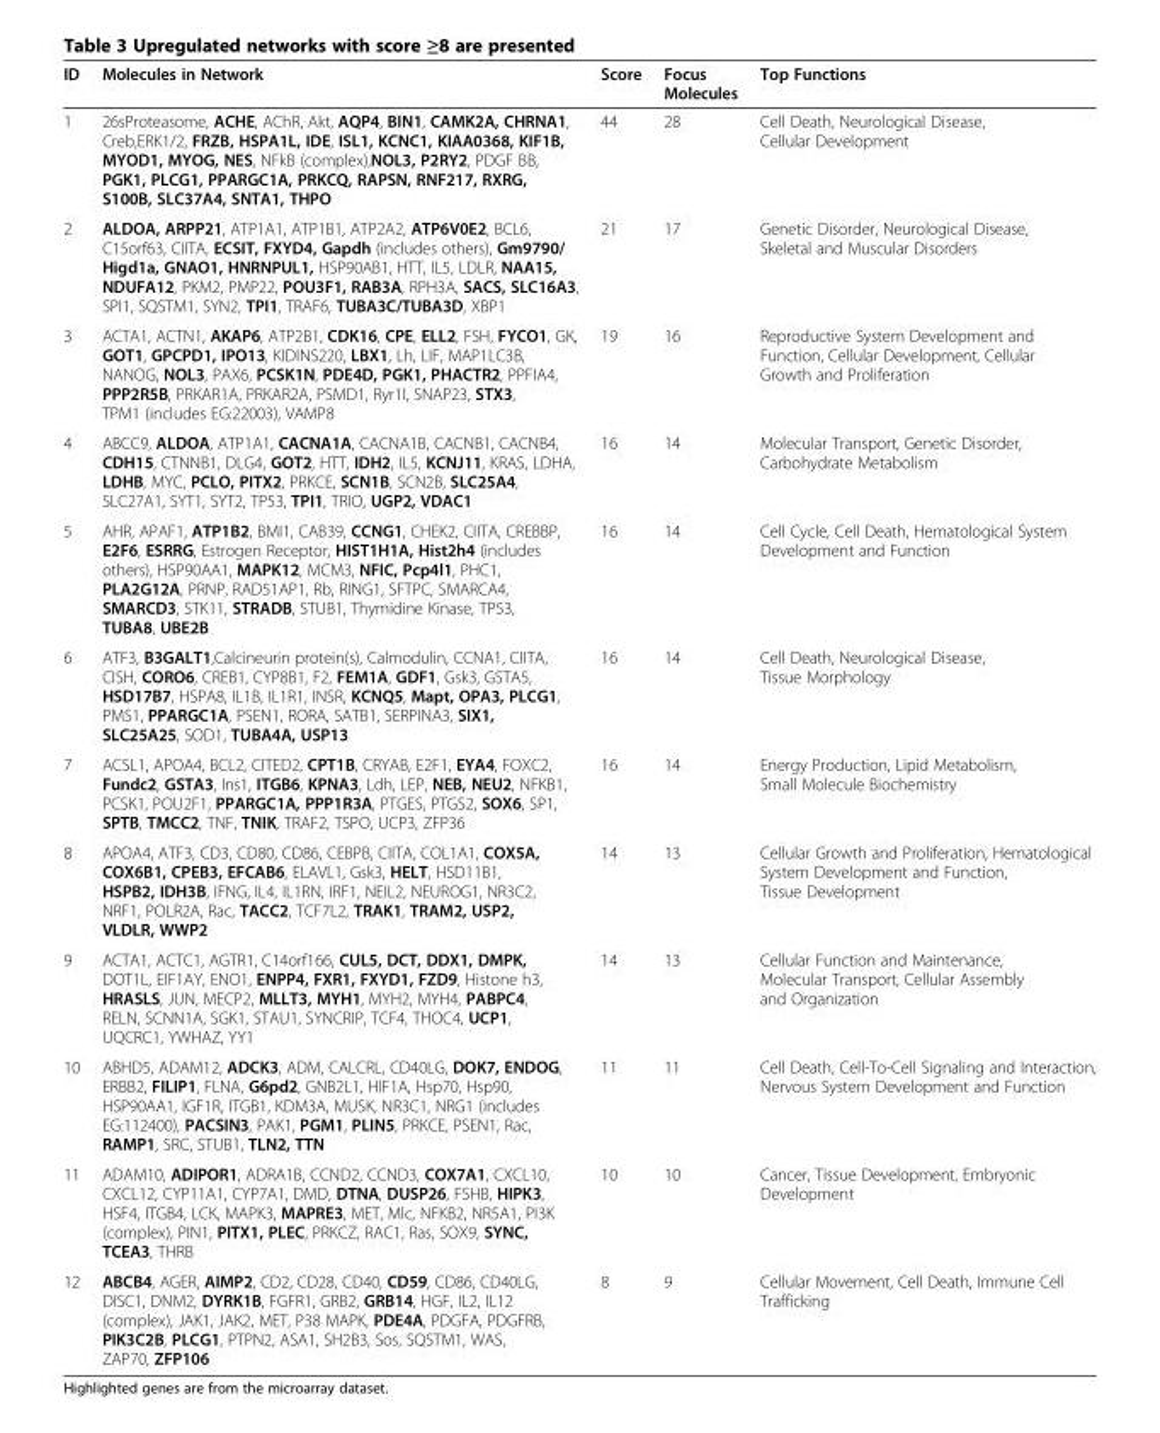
<table><thead><tr><td>ID</td><td>Molecules in Network</td><td>Score</td><td>Focus Molecules</td><td>Top Functions</td></tr></thead><tbody><tr><td>1</td><td>26sProteasome, ACHE, AChR, Akt, AQP4, BIN1, CAMK2A, CHRNA1, Creb,ERK1/2, FRZB, HSPA1L, IDE, ISL1, KCNC1, KIAA0368, KIF1B, MYOD1, MYOG, NES, NFkB (complex),NOL3, P2RY2, PDGF BB, PGK1, PLCG1, PPARGC1A, PRKCQ, RAPSN, RNF217, RXRG, S100B, SLC37A4, SNTA1, THPO</td><td>44</td><td>28</td><td>Cell Death, Neurological Disease, Cellular Development</td></tr><tr><td>2</td><td>ALDOA, ARPP21, ATP1A1, ATP1B1, ATP2A2, ATP6V0E2, BCL6, C15orf63, CIITA, ECSIT, FXYD4, Gapdh (includes others), Gm9790/ Higd1a, GNAO1, HNRNPUL1, HSP90AB1, HTT, IL5, LDLR, NAA15, NDUFA12, PKM2, PMP22, POU3F1, RAB3A, RPH3A, SACS, SLC16A3, SPI1, SQSTM1, SYN2, TPI1, TRAF6, TUBA3C/TUBA3D, XBP1</td><td>21</td><td>17</td><td>Genetic Disorder, Neurological Disease, Skeletal and Muscular Disorders</td></tr><tr><td>3</td><td>ACTA1, ACTN1, AKAP6, ATP2B1, CDK16, CPE, ELL2, FSH, FYCO1, GK, GOT1, GPCPD1, IPO13, KIDINS220, LBX1, Lh, LIF, MAP1LC3B, NANOG, NOL3, PAX6, PCSK1N, PDE4D, PGK1, PHACTR2, PPFIA4, PPP2R5B, PRKAR1A, PRKAR2A, PSMD1, Ryr1l, SNAP23, STX3, TPM1 (includes EG:22003), VAMP8</td><td>19</td><td>16</td><td>Reproductive System Development and Function, Cellular Development, Cellular Growth and Proliferation</td></tr><tr><td>4</td><td>ABCC9, ALDOA, ATP1A1, CACNA1A, CACNA1B, CACNB1, CACNB4, CDH15, CTNNB1, DLG4, GOT2, HTT, IDH2, IL5, KCNJ11, KRAS, LDHA, LDHB, MYC, PCLO, PITX2, PRKCE, SCN1B, SCN2B, SLC25A4, SLC27A1, SYT1, SYT2, TP53, TPI1, TRIO, UGP2, VDAC1</td><td>16</td><td>14</td><td>Molecular Transport, Genetic Disorder, Carbohydrate Metabolism</td></tr><tr><td>5</td><td>AHR, APAF1, ATP1B2, BMI1, CAB39, CCNG1, CHEK2, CIITA, CREBBP, E2F6, ESRRG, Estrogen Receptor, HIST1H1A, Hist2h4 (includes others), HSP90AA1, MAPK12, MCM3, NFIC, Pcp4l1, PHC1, PLA2G12A, PRNP, RAD51AP1, Rb, RING1, SFTPC, SMARCA4, SMARCD3, STK11, STRADB, STUB1, Thymidine Kinase, TP53, TUBA8, UBE2B</td><td>16</td><td>14</td><td>Cell Cycle, Cell Death, Hematological System Development and Function</td></tr><tr><td>6</td><td>ATF3, B3GALT1,Calcineurin protein(s), Calmodulin, CCNA1, CIITA, CISH, CORO6, CREB1, CYP8B1, F2, FEM1A, GDF1, Gsk3, GSTA5, HSD17B7, HSPA8, IL1B, IL1R1, INSR, KCNQ5, Mapt, OPA3, PLCG1, PMS1, PPARGC1A, PSEN1, RORA, SATB1, SERPINA3, SIX1, SLC25A25, SOD1, TUBA4A, USP13</td><td>16</td><td>14</td><td>Cell Death, Neurological Disease, Tissue Morphology</td></tr><tr><td>7</td><td>ACSL1, APOA4, BCL2, CITED2, CPT1B, CRYAB, E2F1, EYA4, FOXC2, Fundc2, GSTA3, Ins1, ITGB6, KPNA3, Ldh, LEP, NEB, NEU2, NFKB1, PCSK1, POU2F1, PPARGC1A, PPP1R3A, PTGES, PTGS2, SOX6, SP1, SPTB, TMCC2, TNF, TNIK, TRAF2, TSPO, UCP3, ZFP36</td><td>16</td><td>14</td><td>Energy Production, Lipid Metabolism, Small Molecule Biochemistry</td></tr><tr><td>8</td><td>APOA4, ATF3, CD3, CD80, CD86, CEBPB, CIITA, COL1A1, COX5A, COX6B1, CPEB3, EFCAB6, ELAVL1, Gsk3, HELT, HSD11B1, HSPB2, IDH3B, IFNG, IL4, IL1RN, IRF1, NEIL2, NEUROG1, NR3C2, NRF1, POLR2A, Rac, TACC2, TCF7L2, TRAK1, TRAM2, USP2, VLDLR, WWP2</td><td>14</td><td>13</td><td>Cellular Growth and Proliferation, Hematological System Development and Function, Tissue Development</td></tr><tr><td>9</td><td>ACTA1, ACTC1, AGTR1, C14orf166, CUL5, DCT, DDX1, DMPK, DOT1L, EIF1AY, ENO1, ENPP4, FXR1, FXYD1, FZD9, Histone h3, HRASLS, JUN, MECP2, MLLT3, MYH1, MYH2, MYH4, PABPC4, RELN, SCNN1A, SGK1, STAU1, SYNCRIP, TCF4, THOC4, UCP1, UQCRC1, YWHAZ, YY1</td><td>14</td><td>13</td><td>Cellular Function and Maintenance, Molecular Transport, Cellular Assembly and Organization</td></tr><tr><td>10</td><td>ABHD5, ADAM12, ADCK3, ADM, CALCRL, CD40LG, DOK7, ENDOG, ERBB2, FILIP1, FLNA, G6pd2, GNB2L1, HIF1A, Hsp70, Hsp90, HSP90AA1, IGF1R, ITGB1, KDM3A, MUSK, NR3C1, NRG1 (includes EG:112400), PACSIN3, PAK1, PGM1, PLIN5, PRKCE, PSEN1, Rac, RAMP1, SRC, STUB1, TLN2, TTN</td><td>11</td><td>11</td><td>Cell Death, Cell-To-Cell Signaling and Interaction, Nervous System Development and Function</td></tr><tr><td>11</td><td>ADAM10, ADIPOR1, ADRA1B, CCND2, CCND3, COX7A1, CXCL10, CXCL12, CYP11A1, CYP7A1, DMD, DTNA, DUSP26, FSHB, HIPK3, HSF4, ITGB4, LCK, MAPK3, MAPRE3, MET, Mlc, NFKB2, NR5A1, PI3K (complex), PIN1, PITX1, PLEC, PRKCZ, RAC1, Ras, SOX9, SYNC, TCEA3, THRB</td><td>10</td><td>10</td><td>Cancer, Tissue Development, Embryonic Development</td></tr><tr><td>12</td><td>ABCB4, AGER, AIMP2, CD2, CD28, CD40, CD59, CD86, CD40LG, DISC1, DNM2, DYRK1B, FGFR1, GRB2, GRB14, HGF, IL2, IL12 (complex), JAK1, JAK2, MET, P38 MAPK, PDE4A, PDGFA, PDGFRB, PIK3C2B, PLCG1, PTPN2, ASA1, SH2B3, Sos, SQSTM1, WAS, ZAP70, ZFP106</td><td>8</td><td>9</td><td>Cellular Movement, Cell Death, Immune Cell Trafficking</td></tr></tbody></table>